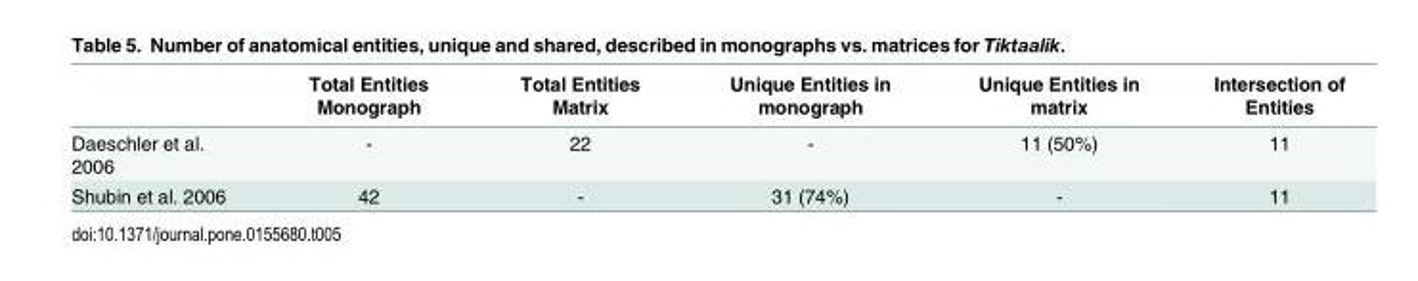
<table><thead><tr><td></td><td>Total Entities Monograph</td><td>Total Entities Matrix</td><td>Unique Entities in monograph</td><td>Unique Entities in matrix</td><td>Intersection of Entities</td></tr></thead><tbody><tr><td>Daeschler et al. 2006</td><td>-</td><td>22</td><td>-</td><td>11 (50%)</td><td>11</td></tr><tr><td>Shubin et al. 2006</td><td>42</td><td>-</td><td>31 (74%)</td><td>-</td><td>11</td></tr></tbody></table>